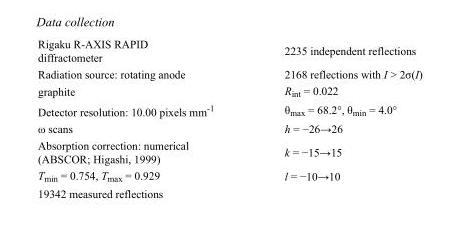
<table><tbody><tr><td>Rigaku R-AXIS RAPID diffractometer</td><td>2235 independent reflections</td></tr><tr><td>Radiation source: rotating anode</td><td>2168 reflections with I &gt; 2σ(I)</td></tr><tr><td>graphite</td><td>R<sub>int</sub> = 0.022</td></tr><tr><td>Detector resolution: 10.00 pixels mm<sup>-1</sup></td><td>θ<sub>max</sub> = 68.2°, θ<sub>min</sub> = 4.0°</td></tr><tr><td>ω scans</td><td>h = −26→26</td></tr><tr><td>Absorption correction: numerical (ABSCOR; Higashi, 1999)</td><td>k = −15→15</td></tr><tr><td>T<sub>min</sub> = 0.754, T<sub>max</sub> = 0.929</td><td>l = −10→10</td></tr><tr><td>19342 measured reflections</td><td></td></tr></tbody></table>